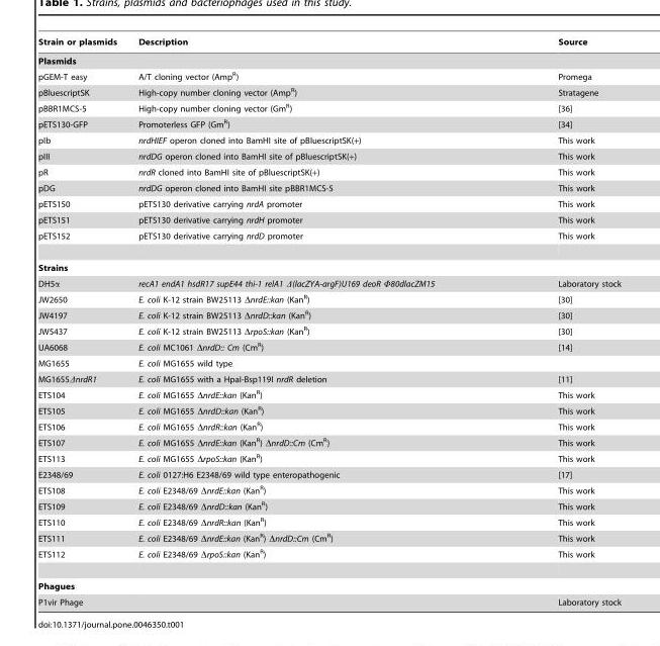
<table><thead><tr><td>Strain or plasmids</td><td>Description</td><td>Source</td></tr></thead><tbody><tr><td colspan="3">Plasmids</td></tr><tr><td>pGEM-T easy</td><td>A/T cloning vector (Amp<sup>R</sup>)</td><td>Promega</td></tr><tr><td>pBluescriptSK</td><td>High-copy number cloning vector (Amp<sup>R</sup>)</td><td>Stratagene</td></tr><tr><td>pBBR1MCS-5</td><td>High-copy number cloning vector (Gm<sup>R</sup>)</td><td>[36]</td></tr><tr><td>pETS130-GFP</td><td>Promoterless GFP (Gm<sup>R</sup>)</td><td>[34]</td></tr><tr><td>pIb</td><td>nrdHIEF operon cloned into BamHI site of pBluescriptSK(+)</td><td>This work</td></tr><tr><td>pIII</td><td>nrdDG operon cloned into BamHI site of pBluescriptSK(+)</td><td>This work</td></tr><tr><td>pR</td><td>nrdR cloned into BamHI site of pBluescriptSK(+)</td><td>This work</td></tr><tr><td>pDG</td><td>nrdDG operon cloned into BamHI site pBBR1MCS-5</td><td>This work</td></tr><tr><td>pETS150</td><td>pETS130 derivative carrying nrdA promoter</td><td>This work</td></tr><tr><td>pETS151</td><td>pETS130 derivative carrying nrdH promoter</td><td>This work</td></tr><tr><td>pETS152</td><td>pETS130 derivative carrying nrdD promoter</td><td>This work</td></tr><tr><td colspan="3">Strains</td></tr><tr><td>DH5α</td><td>recA1 endA1 hsdR17 supE44 thi-1 relA1 Δ(lacZYA-argF)U169 deoR Φ80dlacZM15</td><td>Laboratory stock</td></tr><tr><td>JW2650</td><td>E. coli K-12 strain BW25113 ΔnrdE::kan (Kan<sup>R</sup>)</td><td>[30]</td></tr><tr><td>JW4197</td><td>E. coli K-12 strain BW25113 ΔnrdD::kan (Kan<sup>R</sup>)</td><td>[30]</td></tr><tr><td>JW5437</td><td>E. coli K-12 strain BW25113 ΔrpoS::kan (Kan<sup>R</sup>)</td><td>[30]</td></tr><tr><td>UA6068</td><td>E. coli MC1061 ΔnrdD:: Cm (Cm<sup>R</sup>)</td><td>[14]</td></tr><tr><td>MG1655</td><td>E. coli MG1655 wild type</td><td></td></tr><tr><td>MG1655ΔnrdR1</td><td>E. coli MG1655 with a HpaI-Bsp119I nrdR deletion</td><td>[11]</td></tr><tr><td>ETS104</td><td>E. coli MG1655 ΔnrdE::kan (Kan<sup>R</sup>)</td><td>This work</td></tr><tr><td>ETS105</td><td>E. coli MG1655 ΔnrdD::kan (Kan<sup>R</sup>)</td><td>This work</td></tr><tr><td>ETS106</td><td>E. coli MG1655 ΔnrdR::kan (Kan<sup>R</sup>)</td><td>This work</td></tr><tr><td>ETS107</td><td>E. coli MG1655 ΔnrdE::kan (Kan<sup>R</sup>) ΔnrdD::Cm (Cm<sup>R</sup>)</td><td>This work</td></tr><tr><td>ETS113</td><td>E. coli MG1655 ΔrpoS::kan (Kan<sup>R</sup>)</td><td>This work</td></tr><tr><td>E2348/69</td><td>E. coli 0127:H6 E2348/69 wild type enteropathogenic</td><td>[17]</td></tr><tr><td>ETS108</td><td>E. coli E2348/69 ΔnrdE::kan (Kan<sup>R</sup>)</td><td>This work</td></tr><tr><td>ETS109</td><td>E. coli E2348/69 ΔnrdD::kan (Kan<sup>R</sup>)</td><td>This work</td></tr><tr><td>ETS110</td><td>E. coli E2348/69 ΔnrdR::kan (Kan<sup>R</sup>)</td><td>This work</td></tr><tr><td>ETS111</td><td>E. coli E2348/69 ΔnrdE::kan (Kan<sup>R</sup>) ΔnrdD::Cm (Cm<sup>R</sup>)</td><td>This work</td></tr><tr><td>ETS112</td><td>E. coli E2348/69 ΔrpoS::kan (Kan<sup>R</sup>)</td><td>This work</td></tr><tr><td colspan="3">Phagues</td></tr><tr><td>P1vir Phage</td><td></td><td>Laboratory stock</td></tr></tbody></table>